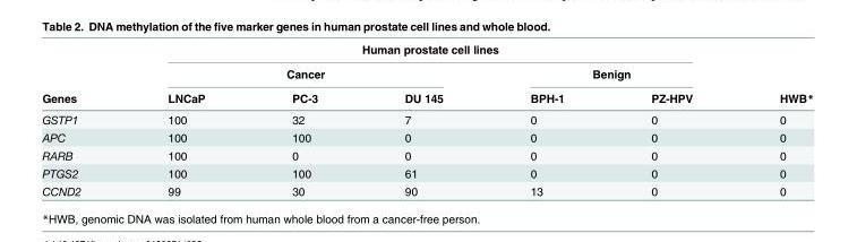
<table><thead><tr><td rowspan="3">Genes</td><td colspan="5">Human prostate cell lines</td><td rowspan="3">HWB*</td></tr><tr><td colspan="3">Cancer</td><td colspan="2">Benign</td></tr><tr><td>LNCaP</td><td>PC-3</td><td>DU 145</td><td>BPH-1</td><td>PZ-HPV</td></tr></thead><tbody><tr><td>GSTP1</td><td>100</td><td>32</td><td>7</td><td>0</td><td>0</td><td>0</td></tr><tr><td>APC</td><td>100</td><td>100</td><td>0</td><td>0</td><td>0</td><td>0</td></tr><tr><td>RARB</td><td>100</td><td>0</td><td>0</td><td>0</td><td>0</td><td>0</td></tr><tr><td>PTGS2</td><td>100</td><td>100</td><td>61</td><td>0</td><td>0</td><td>0</td></tr><tr><td>CCND2</td><td>99</td><td>30</td><td>90</td><td>13</td><td>0</td><td>0</td></tr></tbody></table>